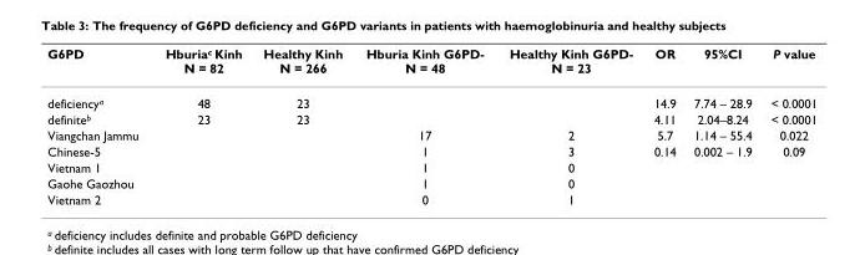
<table><thead><tr><td>G6PD</td><td>Hburia<sup>c</sup> Kinh N = 82</td><td>Healthy Kinh N = 266</td><td>Hburia Kinh G6PD- N = 48</td><td>Healthy Kinh G6PD- N = 23</td><td>OR</td><td>95%CI</td><td>P value</td></tr></thead><tbody><tr><td>deficiency<sup>a</sup></td><td>48</td><td>23</td><td></td><td></td><td>14.9</td><td>7.74 – 28.9</td><td>&lt; 0.0001</td></tr><tr><td>definite<sup>b</sup></td><td>23</td><td>23</td><td></td><td></td><td>4.11</td><td>2.04–8.24</td><td>&lt; 0.0001</td></tr><tr><td>Viangchan Jammu</td><td></td><td></td><td>17</td><td>2</td><td>5.7</td><td>1.14 – 55.4</td><td>0.022</td></tr><tr><td>Chinese-5</td><td></td><td></td><td>1</td><td>3</td><td>0.14</td><td>0.002 – 1.9</td><td>0.09</td></tr><tr><td>Vietnam 1</td><td></td><td></td><td>1</td><td>0</td><td></td><td></td><td></td></tr><tr><td>Gaohe Gaozhou</td><td></td><td></td><td>1</td><td>0</td><td></td><td></td><td></td></tr><tr><td>Vietnam 2</td><td></td><td></td><td>0</td><td>1</td><td></td><td></td><td></td></tr></tbody></table>